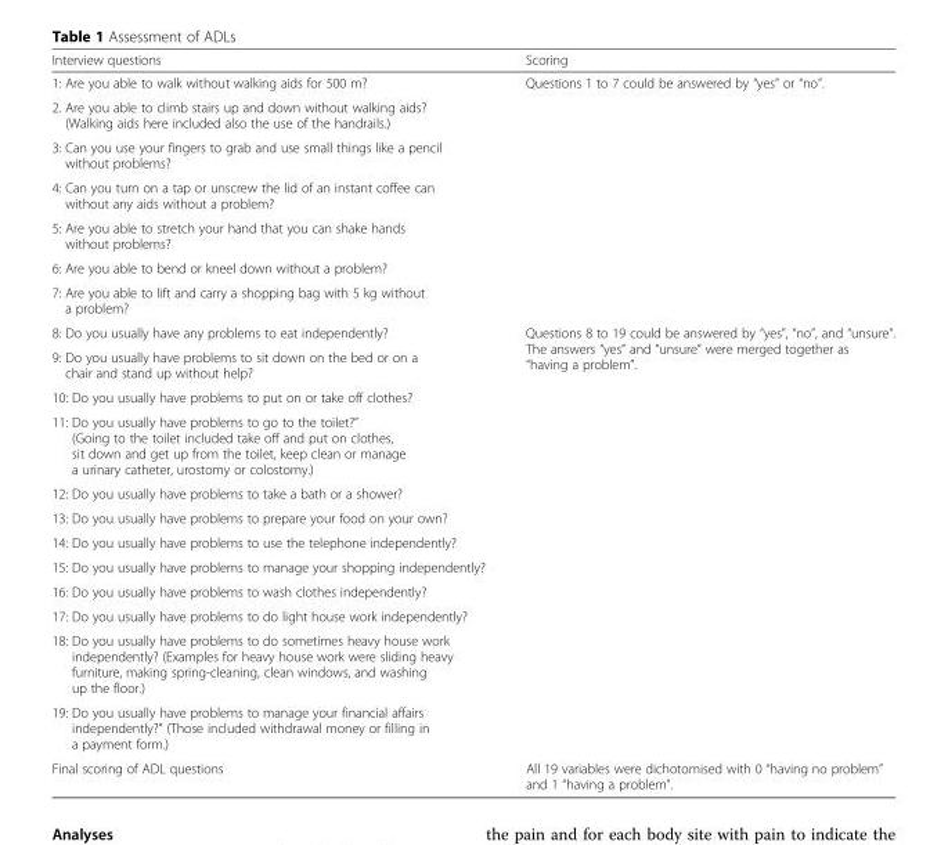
<table><thead><tr><td>Interview questions</td><td>Scoring</td></tr></thead><tbody><tr><td>1: Are you able to walk without walking aids for 500 m?</td><td rowspan="7">Questions 1 to 7 could be answered by “yes” or “no”.</td></tr><tr><td>2. Are you able to climb stairs up and down without walking aids? (Walking aids here included also the use of the handrails.)</td></tr><tr><td>3: Can you use your fingers to grab and use small things like a pencil without problems?</td></tr><tr><td>4: Can you turn on a tap or unscrew the lid of an instant coffee can without any aids without a problem?</td></tr><tr><td>5: Are you able to stretch your hand that you can shake hands without problems?</td></tr><tr><td>6: Are you able to bend or kneel down without a problem?</td></tr><tr><td>7: Are you able to lift and carry a shopping bag with 5 kg without a problem?</td></tr><tr><td>8: Do you usually have any problems to eat independently?</td><td rowspan="12">Questions 8 to 19 could be answered by “yes”, “no”, and “unsure”. The answers “yes” and “unsure” were merged together as “having a problem”.</td></tr><tr><td>9: Do you usually have problems to sit down on the bed or on a chair and stand up without help?</td></tr><tr><td>10: Do you usually have problems to put on or take off clothes?</td></tr><tr><td>11: Do you usually have problems to go to the toilet?” (Going to the toilet included take off and put on clothes, sit down and get up from the toilet, keep clean or manage a urinary catheter, urostomy or colostomy.)</td></tr><tr><td>12: Do you usually have problems to take a bath or a shower?</td></tr><tr><td>13: Do you usually have problems to prepare your food on your own?</td></tr><tr><td>14: Do you usually have problems to use the telephone independently?</td></tr><tr><td>15: Do you usually have problems to manage your shopping independently?</td></tr><tr><td>16: Do you usually have problems to wash clothes independently?</td></tr><tr><td>17: Do you usually have problems to do light house work independently?</td></tr><tr><td>18: Do you usually have problems to do sometimes heavy house work independently? (Examples for heavy house work were sliding heavy furniture, making spring-cleaning, clean windows, and washing up the floor.)</td></tr><tr><td>19: Do you usually have problems to manage your financial affairs independently?” (Those included withdrawal money or filling in a payment form.)</td></tr><tr><td>Final scoring of ADL questions</td><td>All 19 variables were dichotomised with 0 “having no problem” and 1 “having a problem”.</td></tr></tbody></table>